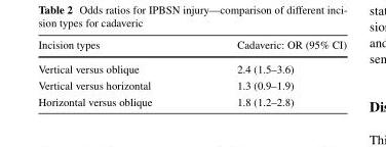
<table><thead><tr><td>Incision types</td><td>Cadaveric: OR (95% CI)</td></tr></thead><tbody><tr><td>Vertical versus oblique</td><td>2.4 (1.5–3.6)</td></tr><tr><td>Vertical versus horizontal</td><td>1.3 (0.9–1.9)</td></tr><tr><td>Horizontal versus oblique</td><td>1.8 (1.2–2.8)</td></tr></tbody></table>